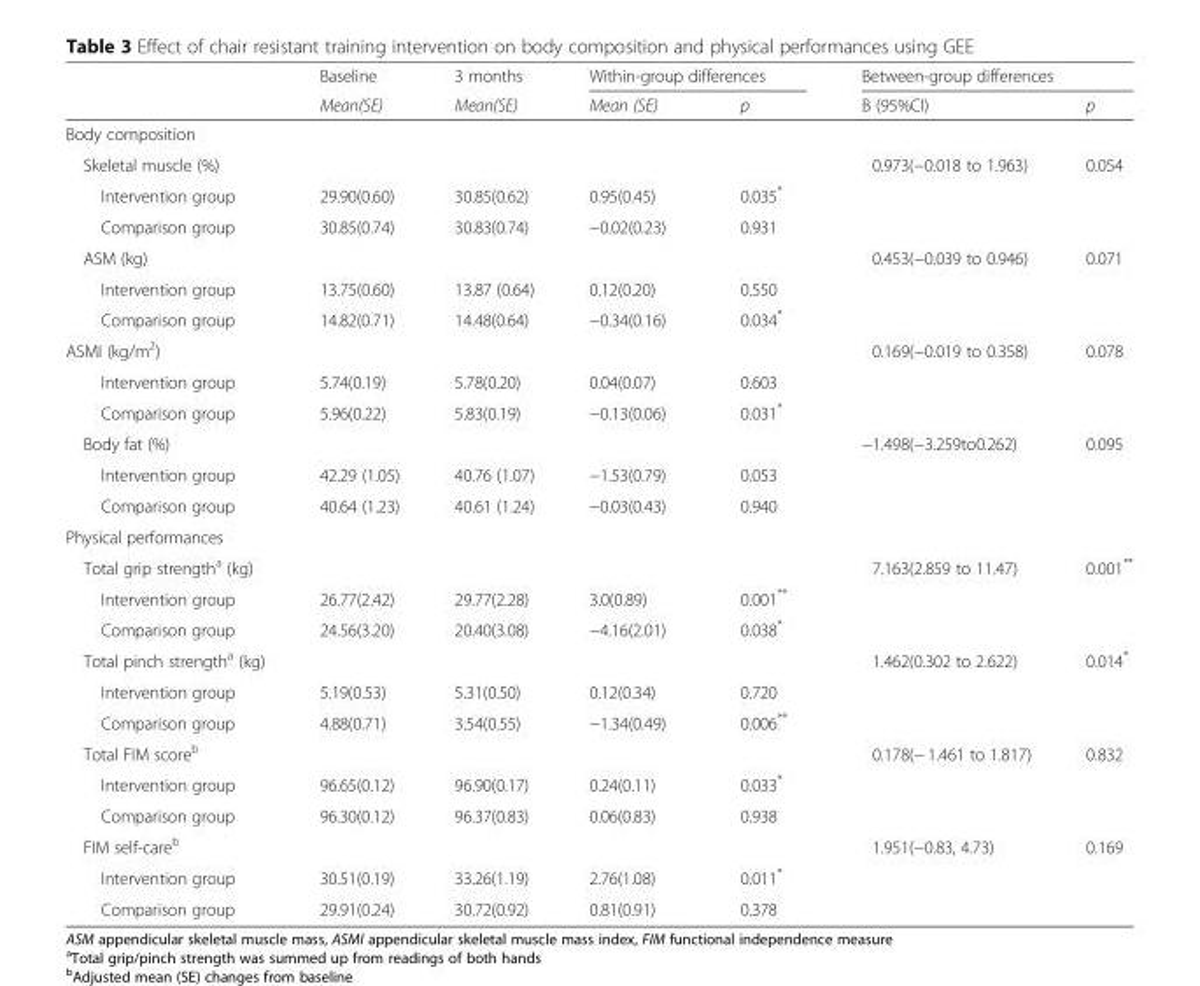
<table><thead><tr><td rowspan="2"></td><td rowspan="2">Baseline Mean(SE)</td><td rowspan="2">3 months Mean(SE)</td><td colspan="2">Within-group differences</td><td colspan="2">Between-group differences</td></tr><tr><td>Mean (SE)</td><td>p</td><td>B (95%CI)</td><td>p</td></tr></thead><tbody><tr><td colspan="7">Body composition</td></tr><tr><td>Skeletal muscle (%)</td><td></td><td></td><td></td><td></td><td>0.973(−0.018 to 1.963)</td><td>0.054</td></tr><tr><td>Intervention group</td><td>29.90(0.60)</td><td>30.85(0.62)</td><td>0.95(0.45)</td><td>0.035*</td><td></td><td></td></tr><tr><td>Comparison group</td><td>30.85(0.74)</td><td>30.83(0.74)</td><td>−0.02(0.23)</td><td>0.931</td><td></td><td></td></tr><tr><td>ASM (kg)</td><td></td><td></td><td></td><td></td><td>0.453(−0.039 to 0.946)</td><td>0.071</td></tr><tr><td>Intervention group</td><td>13.75(0.60)</td><td>13.87 (0.64)</td><td>0.12(0.20)</td><td>0.550</td><td></td><td></td></tr><tr><td>Comparison group</td><td>14.82(0.71)</td><td>14.48(0.64)</td><td>−0.34(0.16)</td><td>0.034*</td><td></td><td></td></tr><tr><td>ASMI (kg/m<sup>2</sup>)</td><td></td><td></td><td></td><td></td><td>0.169(−0.019 to 0.358)</td><td>0.078</td></tr><tr><td>Intervention group</td><td>5.74(0.19)</td><td>5.78(0.20)</td><td>0.04(0.07)</td><td>0.603</td><td></td><td></td></tr><tr><td>Comparison group</td><td>5.96(0.22)</td><td>5.83(0.19)</td><td>−0.13(0.06)</td><td>0.031*</td><td></td><td></td></tr><tr><td>Body fat (%)</td><td></td><td></td><td></td><td></td><td>−1.498(−3.259to0.262)</td><td>0.095</td></tr><tr><td>Intervention group</td><td>42.29 (1.05)</td><td>40.76 (1.07)</td><td>−1.53(0.79)</td><td>0.053</td><td></td><td></td></tr><tr><td>Comparison group</td><td>40.64 (1.23)</td><td>40.61 (1.24)</td><td>−0.03(0.43)</td><td>0.940</td><td></td><td></td></tr><tr><td colspan="7">Physical performances</td></tr><tr><td>Total grip strength<sup>a</sup> (kg)</td><td></td><td></td><td></td><td></td><td>7.163(2.859 to 11.47)</td><td>0.001**</td></tr><tr><td>Intervention group</td><td>26.77(2.42)</td><td>29.77(2.28)</td><td>3.0(0.89)</td><td>0.001**</td><td></td><td></td></tr><tr><td>Comparison group</td><td>24.56(3.20)</td><td>20.40(3.08)</td><td>−4.16(2.01)</td><td>0.038*</td><td></td><td></td></tr><tr><td>Total pinch strength<sup>a</sup> (kg)</td><td></td><td></td><td></td><td></td><td>1.462(0.302 to 2.622)</td><td>0.014*</td></tr><tr><td>Intervention group</td><td>5.19(0.53)</td><td>5.31(0.50)</td><td>0.12(0.34)</td><td>0.720</td><td></td><td></td></tr><tr><td>Comparison group</td><td>4.88(0.71)</td><td>3.54(0.55)</td><td>−1.34(0.49)</td><td>0.006**</td><td></td><td></td></tr><tr><td>Total FIM score<sup>b</sup></td><td></td><td></td><td></td><td></td><td>0.178(− 1.461 to 1.817)</td><td>0.832</td></tr><tr><td>Intervention group</td><td>96.65(0.12)</td><td>96.90(0.17)</td><td>0.24(0.11)</td><td>0.033*</td><td></td><td></td></tr><tr><td>Comparison group</td><td>96.30(0.12)</td><td>96.37(0.83)</td><td>0.06(0.83)</td><td>0.938</td><td></td><td></td></tr><tr><td>FIM self-care<sup>b</sup></td><td></td><td></td><td></td><td></td><td>1.951(−0.83, 4.73)</td><td>0.169</td></tr><tr><td>Intervention group</td><td>30.51(0.19)</td><td>33.26(1.19)</td><td>2.76(1.08)</td><td>0.011*</td><td></td><td></td></tr><tr><td>Comparison group</td><td>29.91(0.24)</td><td>30.72(0.92)</td><td>0.81(0.91)</td><td>0.378</td><td></td><td></td></tr></tbody></table>